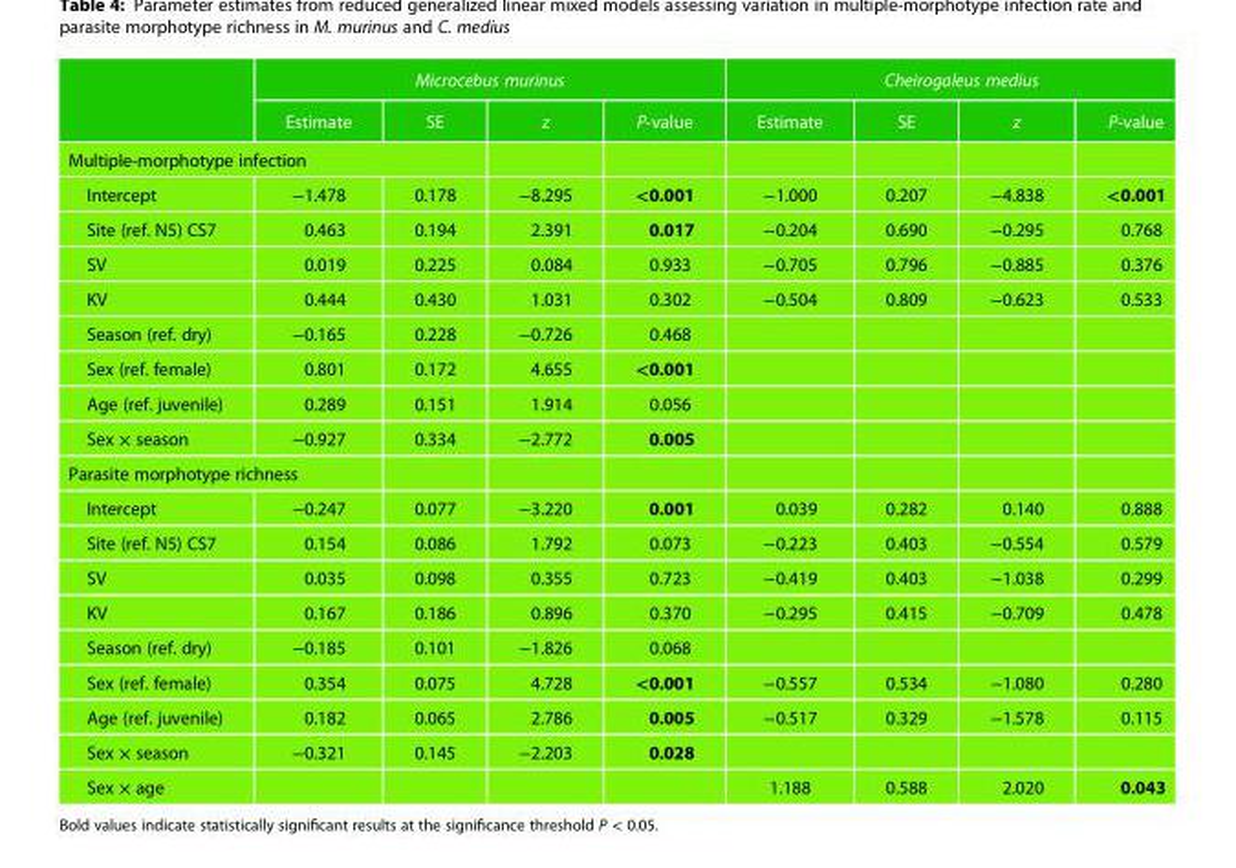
<table><thead><tr><td rowspan="2"></td><td colspan="4">Microcebus murinus</td><td colspan="4">Cheirogaleus medius</td></tr><tr><td>Estimate</td><td>SE</td><td>z</td><td>P-value</td><td>Estimate</td><td>SE</td><td>z</td><td>P-value</td></tr></thead><tbody><tr><td colspan="9">Multiple-morphotype infection</td></tr><tr><td>Intercept</td><td>−1.478</td><td>0.178</td><td>−8.295</td><td>&lt;0.001</td><td>−1.000</td><td>0.207</td><td>−4.838</td><td>&lt;0.001</td></tr><tr><td>Site (ref. N5) CS7</td><td>0.463</td><td>0.194</td><td>2.391</td><td>0.017</td><td>−0.204</td><td>0.690</td><td>−0.295</td><td>0.768</td></tr><tr><td>SV</td><td>0.019</td><td>0.225</td><td>0.084</td><td>0.933</td><td>−0.705</td><td>0.796</td><td>−0.885</td><td>0.376</td></tr><tr><td>KV</td><td>0.444</td><td>0.430</td><td>1.031</td><td>0.302</td><td>−0.504</td><td>0.809</td><td>−0.623</td><td>0.533</td></tr><tr><td>Season (ref. dry)</td><td>−0.165</td><td>0.228</td><td>−0.726</td><td>0.468</td><td></td><td></td><td></td><td></td></tr><tr><td>Sex (ref. female)</td><td>0.801</td><td>0.172</td><td>4.655</td><td>&lt;0.001</td><td></td><td></td><td></td><td></td></tr><tr><td>Age (ref. juvenile)</td><td>0.289</td><td>0.151</td><td>1.914</td><td>0.056</td><td></td><td></td><td></td><td></td></tr><tr><td>Sex × season</td><td>−0.927</td><td>0.334</td><td>−2.772</td><td>0.005</td><td></td><td></td><td></td><td></td></tr><tr><td colspan="9">Parasite morphotype richness</td></tr><tr><td>Intercept</td><td>−0.247</td><td>0.077</td><td>−3.220</td><td>0.001</td><td>0.039</td><td>0.282</td><td>0.140</td><td>0.888</td></tr><tr><td>Site (ref. N5) CS7</td><td>0.154</td><td>0.086</td><td>1.792</td><td>0.073</td><td>−0.223</td><td>0.403</td><td>−0.554</td><td>0.579</td></tr><tr><td>SV</td><td>0.035</td><td>0.098</td><td>0.355</td><td>0.723</td><td>−0.419</td><td>0.403</td><td>−1.038</td><td>0.299</td></tr><tr><td>KV</td><td>0.167</td><td>0.186</td><td>0.896</td><td>0.370</td><td>−0.295</td><td>0.415</td><td>−0.709</td><td>0.478</td></tr><tr><td>Season (ref. dry)</td><td>−0.185</td><td>0.101</td><td>−1.826</td><td>0.068</td><td></td><td></td><td></td><td></td></tr><tr><td>Sex (ref. female)</td><td>0.354</td><td>0.075</td><td>4.728</td><td>&lt;0.001</td><td>−0.557</td><td>0.534</td><td>−1.080</td><td>0.280</td></tr><tr><td>Age (ref. juvenile)</td><td>0.182</td><td>0.065</td><td>2.786</td><td>0.005</td><td>−0.517</td><td>0.329</td><td>−1.578</td><td>0.115</td></tr><tr><td>Sex × season</td><td>−0.321</td><td>0.145</td><td>−2.203</td><td>0.028</td><td></td><td></td><td></td><td></td></tr><tr><td>Sex × age</td><td></td><td></td><td></td><td></td><td>1.188</td><td>0.588</td><td>2.020</td><td>0.043</td></tr></tbody></table>